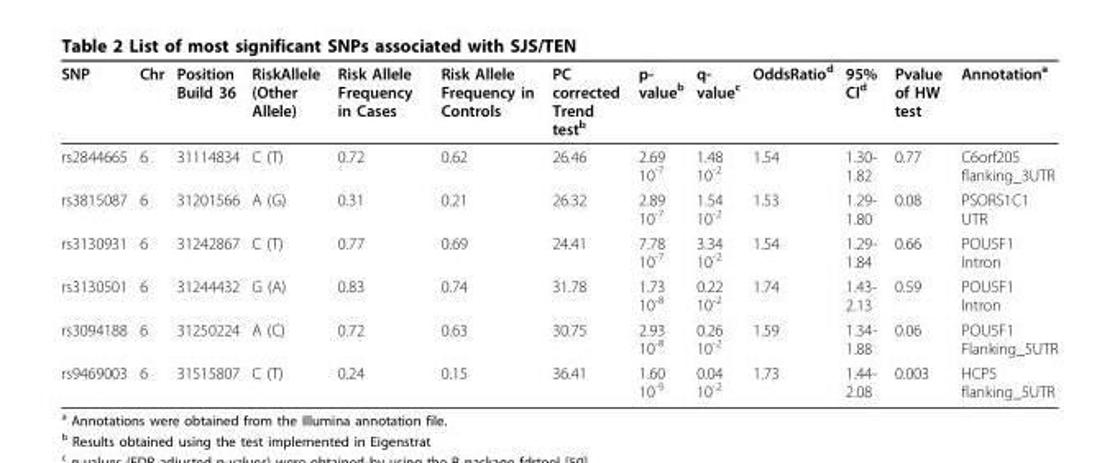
<table><thead><tr><td>SNP</td><td>Chr</td><td>Position Build 36</td><td>RiskAllele (Other Allele)</td><td>Risk Allele Frequency in Cases</td><td>Risk Allele Frequency in Controls</td><td>PC corrected Trend test<sup>b</sup></td><td>p- value<sup>b</sup></td><td>q- value<sup>c</sup></td><td>OddsRatio<sup>d</sup></td><td>95% CI<sup>d</sup></td><td>Pvalue of HW test</td><td>Annotation<sup>a</sup></td></tr></thead><tbody><tr><td>rs2844665</td><td>6</td><td>31114834</td><td>C (T)</td><td>0.72</td><td>0.62</td><td>26.46</td><td>2.69 10<sup>-7</sup></td><td>1.48 10<sup>-2</sup></td><td>1.54</td><td>1.30- 1.82</td><td>0.77</td><td>C6orf205 flanking_3UTR</td></tr><tr><td>rs3815087</td><td>6</td><td>31201566</td><td>A (G)</td><td>0.31</td><td>0.21</td><td>26.32</td><td>2.89 10<sup>-7</sup></td><td>1.54 10<sup>-2</sup></td><td>1.53</td><td>1.29- 1.80</td><td>0.08</td><td>PSORS1C1 UTR</td></tr><tr><td>rs3130931</td><td>6</td><td>31242867</td><td>C (T)</td><td>0.77</td><td>0.69</td><td>24.41</td><td>7.78 10<sup>-7</sup></td><td>3.34 10<sup>-2</sup></td><td>1.54</td><td>1.29- 1.84</td><td>0.66</td><td>POU5F1 Intron</td></tr><tr><td>rs3130501</td><td>6</td><td>31244432</td><td>G (A)</td><td>0.83</td><td>0.74</td><td>31.78</td><td>1.73 10<sup>-8</sup></td><td>0.22 10<sup>-2</sup></td><td>1.74</td><td>1.43- 2.13</td><td>0.59</td><td>POU5F1 Intron</td></tr><tr><td>rs3094188</td><td>6</td><td>31250224</td><td>A (C)</td><td>0.72</td><td>0.63</td><td>30.75</td><td>2.93 10<sup>-8</sup></td><td>0.26 10<sup>-2</sup></td><td>1.59</td><td>1.34- 1.88</td><td>0.06</td><td>POU5F1 Flanking_5UTR</td></tr><tr><td>rs9469003</td><td>6</td><td>31515807</td><td>C (T)</td><td>0.24</td><td>0.15</td><td>36.41</td><td>1.60 10<sup>-9</sup></td><td>0.04 10<sup>-2</sup></td><td>1.73</td><td>1.44- 2.08</td><td>0.003</td><td>HCP5 flanking_5UTR</td></tr></tbody></table>